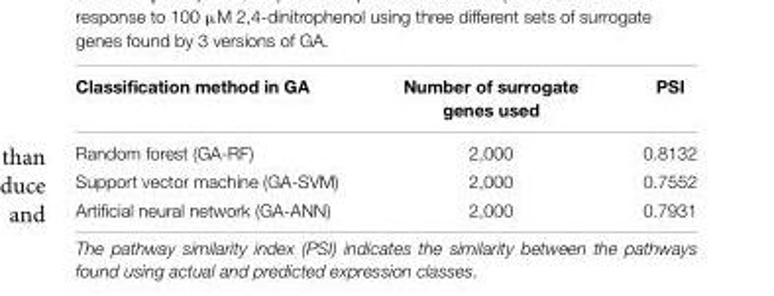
<table><thead><tr><td>Classification method in GA</td><td>Number of surrogate genes used</td><td>PSI</td></tr></thead><tbody><tr><td>Random forest (GA-RF)</td><td>2,000</td><td>0.8132</td></tr><tr><td>Support vector machine (GA-SVM)</td><td>2,000</td><td>0.7552</td></tr><tr><td>Artificial neural network (GA-ANN)</td><td>2,000</td><td>0.7931</td></tr></tbody></table>